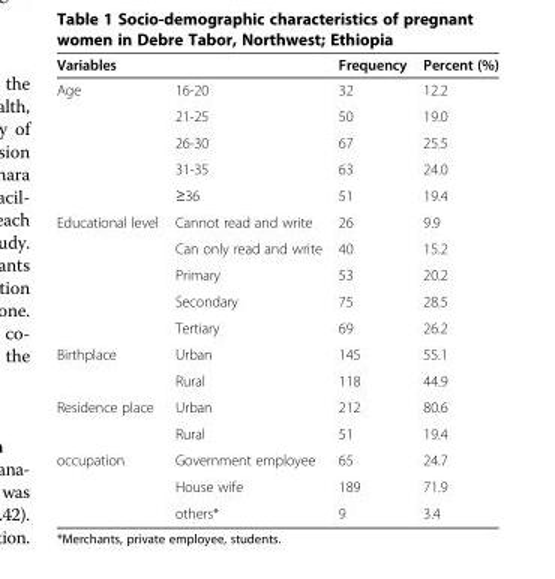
<table><thead><tr><td>Variables</td><td></td><td>Frequency</td><td>Percent (%)</td></tr></thead><tbody><tr><td rowspan="5">Age</td><td>16-20</td><td>32</td><td>12.2</td></tr><tr><td>21-25</td><td>50</td><td>19.0</td></tr><tr><td>26-30</td><td>67</td><td>25.5</td></tr><tr><td>31-35</td><td>63</td><td>24.0</td></tr><tr><td>≥36</td><td>51</td><td>19.4</td></tr><tr><td rowspan="5">Educational level</td><td>Cannot read and write</td><td>26</td><td>9.9</td></tr><tr><td>Can only read and write</td><td>40</td><td>15.2</td></tr><tr><td>Primary</td><td>53</td><td>20.2</td></tr><tr><td>Secondary</td><td>75</td><td>28.5</td></tr><tr><td>Tertiary</td><td>69</td><td>26.2</td></tr><tr><td rowspan="2">Birthplace</td><td>Urban</td><td>145</td><td>55.1</td></tr><tr><td>Rural</td><td>118</td><td>44.9</td></tr><tr><td rowspan="2">Residence place</td><td>Urban</td><td>212</td><td>80.6</td></tr><tr><td>Rural</td><td>51</td><td>19.4</td></tr><tr><td rowspan="3">occupation</td><td>Government employee</td><td>65</td><td>24.7</td></tr><tr><td>House wife</td><td>189</td><td>71.9</td></tr><tr><td>others*</td><td>9</td><td>3.4</td></tr></tbody></table>